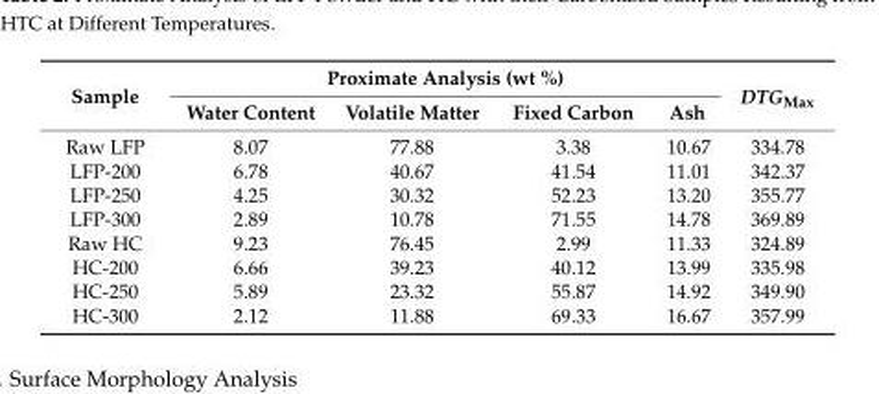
<table><thead><tr><td rowspan="2">Sample</td><td colspan="4">Proximate Analysis (wt %)</td><td rowspan="2">DTG<sub>Max</sub></td></tr><tr><td>Water Content</td><td>Volatile Matter</td><td>Fixed Carbon</td><td>Ash</td></tr></thead><tbody><tr><td>Raw LFP</td><td>8.07</td><td>77.88</td><td>3.38</td><td>10.67</td><td>334.78</td></tr><tr><td>LFP-200</td><td>6.78</td><td>40.67</td><td>41.54</td><td>11.01</td><td>342.37</td></tr><tr><td>LFP-250</td><td>4.25</td><td>30.32</td><td>52.23</td><td>13.20</td><td>355.77</td></tr><tr><td>LFP-300</td><td>2.89</td><td>10.78</td><td>71.55</td><td>14.78</td><td>369.89</td></tr><tr><td>Raw HC</td><td>9.23</td><td>76.45</td><td>2.99</td><td>11.33</td><td>324.89</td></tr><tr><td>HC-200</td><td>6.66</td><td>39.23</td><td>40.12</td><td>13.99</td><td>335.98</td></tr><tr><td>HC-250</td><td>5.89</td><td>23.32</td><td>55.87</td><td>14.92</td><td>349.90</td></tr><tr><td>HC-300</td><td>2.12</td><td>11.88</td><td>69.33</td><td>16.67</td><td>357.99</td></tr></tbody></table>